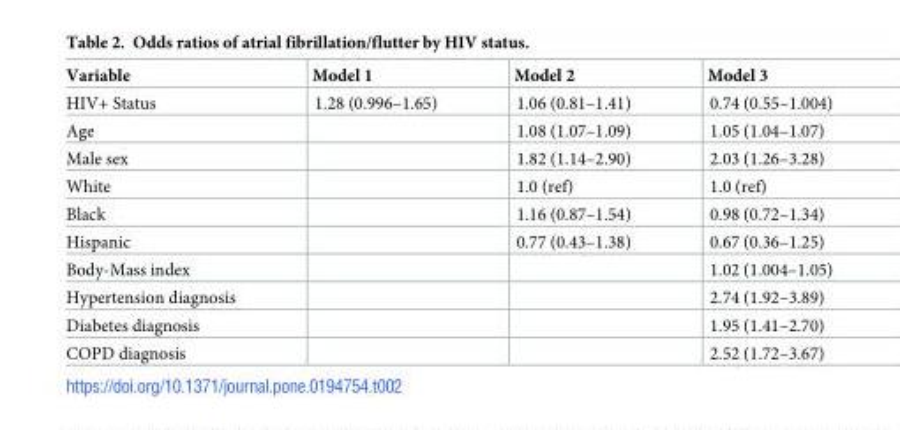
<table><thead><tr><td>Variable</td><td>Model 1</td><td>Model 2</td><td>Model 3</td></tr></thead><tbody><tr><td>HIV+ Status</td><td>1.28 (0.996–1.65)</td><td>1.06 (0.81–1.41)</td><td>0.74 (0.55–1.004)</td></tr><tr><td>Age</td><td></td><td>1.08 (1.07–1.09)</td><td>1.05 (1.04–1.07)</td></tr><tr><td>Male sex</td><td></td><td>1.82 (1.14–2.90)</td><td>2.03 (1.26–3.28)</td></tr><tr><td>White</td><td></td><td>1.0 (ref)</td><td>1.0 (ref)</td></tr><tr><td>Black</td><td></td><td>1.16 (0.87–1.54)</td><td>0.98 (0.72–1.34)</td></tr><tr><td>Hispanic</td><td></td><td>0.77 (0.43–1.38)</td><td>0.67 (0.36–1.25)</td></tr><tr><td>Body-Mass index</td><td></td><td></td><td>1.02 (1.004–1.05)</td></tr><tr><td>Hypertension diagnosis</td><td></td><td></td><td>2.74 (1.92–3.89)</td></tr><tr><td>Diabetes diagnosis</td><td></td><td></td><td>1.95 (1.41–2.70)</td></tr><tr><td>COPD diagnosis</td><td></td><td></td><td>2.52 (1.72–3.67)</td></tr></tbody></table>